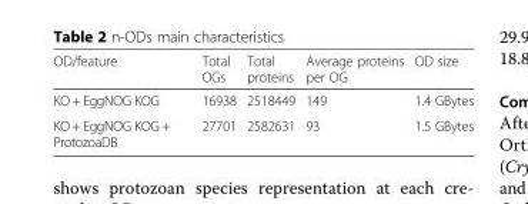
<table><thead><tr><td>OD/feature</td><td>Total OGs</td><td>Total proteins</td><td>Average proteins per OG</td><td>OD size</td></tr></thead><tbody><tr><td>KO + EggNOG KOG</td><td>16938</td><td>2518449</td><td>149</td><td>1.4 GBytes</td></tr><tr><td>KO + EggNOG KOG + ProtozoaDB</td><td>27701</td><td>2582631</td><td>93</td><td>1.5 GBytes</td></tr></tbody></table>